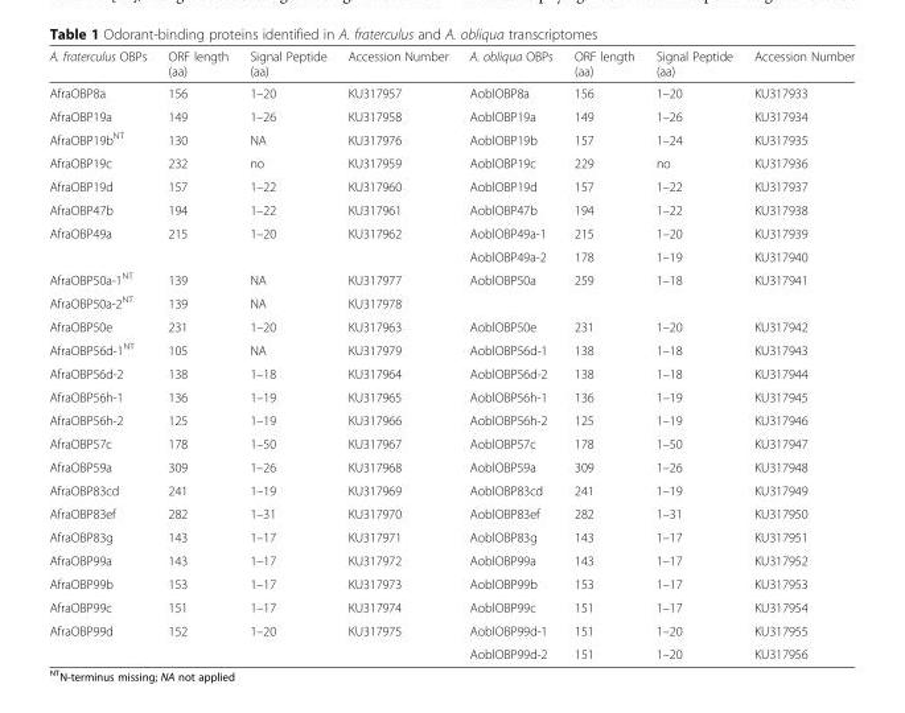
<table><thead><tr><td>A. fraterculus OBPs</td><td>ORF length (aa)</td><td>Signal Peptide (aa)</td><td>Accession Number</td><td>A. obliqua OBPs</td><td>ORF length (aa)</td><td>Signal Peptide (aa)</td><td>Accession Number</td></tr></thead><tbody><tr><td>AfraOBP8a</td><td>156</td><td>1–20</td><td>KU317957</td><td>AoblOBP8a</td><td>156</td><td>1–20</td><td>KU317933</td></tr><tr><td>AfraOBP19a</td><td>149</td><td>1–26</td><td>KU317958</td><td>AoblOBP19a</td><td>149</td><td>1–26</td><td>KU317934</td></tr><tr><td>AfraOBP19b<sup>NT</sup></td><td>130</td><td>NA</td><td>KU317976</td><td>AoblOBP19b</td><td>157</td><td>1–24</td><td>KU317935</td></tr><tr><td>AfraOBP19c</td><td>232</td><td>no</td><td>KU317959</td><td>AoblOBP19c</td><td>229</td><td>no</td><td>KU317936</td></tr><tr><td>AfraOBP19d</td><td>157</td><td>1–22</td><td>KU317960</td><td>AoblOBP19d</td><td>157</td><td>1–22</td><td>KU317937</td></tr><tr><td>AfraOBP47b</td><td>194</td><td>1–22</td><td>KU317961</td><td>AoblOBP47b</td><td>194</td><td>1–22</td><td>KU317938</td></tr><tr><td>AfraOBP49a</td><td>215</td><td>1–20</td><td>KU317962</td><td>AoblOBP49a-1</td><td>215</td><td>1–20</td><td>KU317939</td></tr><tr><td colspan="2"></td><td></td><td></td><td>AoblOBP49a-2</td><td>178</td><td>1–19</td><td>KU317940</td></tr><tr><td>AfraOBP50a-1<sup>NT</sup></td><td>139</td><td>NA</td><td>KU317977</td><td>AoblOBP50a</td><td>259</td><td>1–18</td><td>KU317941</td></tr><tr><td>AfraOBP50a-2<sup>NT</sup></td><td>139</td><td>NA</td><td>KU317978</td><td></td><td></td><td></td><td></td></tr><tr><td>AfraOBP50e</td><td>231</td><td>1–20</td><td>KU317963</td><td>AoblOBP50e</td><td>231</td><td>1–20</td><td>KU317942</td></tr><tr><td>AfraOBP56d-1<sup>NT</sup></td><td>105</td><td>NA</td><td>KU317979</td><td>AoblOBP56d-1</td><td>138</td><td>1–18</td><td>KU317943</td></tr><tr><td>AfraOBP56d-2</td><td>138</td><td>1–18</td><td>KU317964</td><td>AoblOBP56d-2</td><td>138</td><td>1–18</td><td>KU317944</td></tr><tr><td>AfraOBP56h-1</td><td>136</td><td>1–19</td><td>KU317965</td><td>AoblOBP56h-1</td><td>136</td><td>1–19</td><td>KU317945</td></tr><tr><td>AfraOBP56h-2</td><td>125</td><td>1–19</td><td>KU317966</td><td>AoblOBP56h-2</td><td>125</td><td>1–19</td><td>KU317946</td></tr><tr><td>AfraOBP57c</td><td>178</td><td>1–50</td><td>KU317967</td><td>AoblOBP57c</td><td>178</td><td>1–50</td><td>KU317947</td></tr><tr><td>AfraOBP59a</td><td>309</td><td>1–26</td><td>KU317968</td><td>AoblOBP59a</td><td>309</td><td>1–26</td><td>KU317948</td></tr><tr><td>AfraOBP83cd</td><td>241</td><td>1–19</td><td>KU317969</td><td>AoblOBP83cd</td><td>241</td><td>1–19</td><td>KU317949</td></tr><tr><td>AfraOBP83ef</td><td>282</td><td>1–31</td><td>KU317970</td><td>AoblOBP83ef</td><td>282</td><td>1–31</td><td>KU317950</td></tr><tr><td>AfraOBP83g</td><td>143</td><td>1–17</td><td>KU317971</td><td>AoblOBP83g</td><td>143</td><td>1–17</td><td>KU317951</td></tr><tr><td>AfraOBP99a</td><td>143</td><td>1–17</td><td>KU317972</td><td>AoblOBP99a</td><td>143</td><td>1–17</td><td>KU317952</td></tr><tr><td>AfraOBP99b</td><td>153</td><td>1–17</td><td>KU317973</td><td>AoblOBP99b</td><td>153</td><td>1–17</td><td>KU317953</td></tr><tr><td>AfraOBP99c</td><td>151</td><td>1–17</td><td>KU317974</td><td>AoblOBP99c</td><td>151</td><td>1–17</td><td>KU317954</td></tr><tr><td rowspan="2">AfraOBP99d</td><td>152</td><td>1–20</td><td>KU317975</td><td>AoblOBP99d-1</td><td>151</td><td>1–20</td><td>KU317955</td></tr><tr><td></td><td></td><td></td><td>AoblOBP99d-2</td><td>151</td><td>1–20</td><td>KU317956</td></tr></tbody></table>